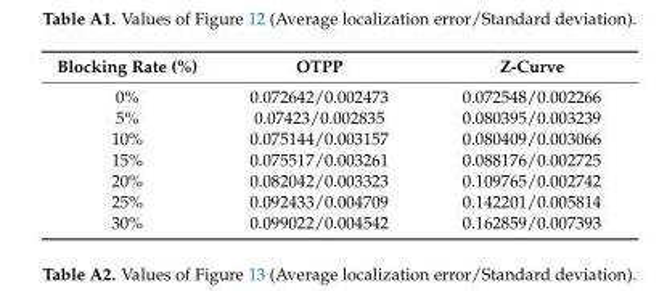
<table><thead><tr><td>Blocking Rate (%)</td><td>OTPP</td><td>Z-Curve</td></tr></thead><tbody><tr><td>0%</td><td>0.072642/0.002473</td><td>0.072548/0.002266</td></tr><tr><td>5%</td><td>0.07423/0.002835</td><td>0.080395/0.003239</td></tr><tr><td>10%</td><td>0.075144/0.003157</td><td>0.080409/0.003066</td></tr><tr><td>15%</td><td>0.075517/0.003261</td><td>0.088176/0.002725</td></tr><tr><td>20%</td><td>0.082042/0.003323</td><td>0.109765/0.002742</td></tr><tr><td>25%</td><td>0.092433/0.004709</td><td>0.142201/0.005814</td></tr><tr><td>30%</td><td>0.099022/0.004542</td><td>0.162859/0.007393</td></tr></tbody></table>